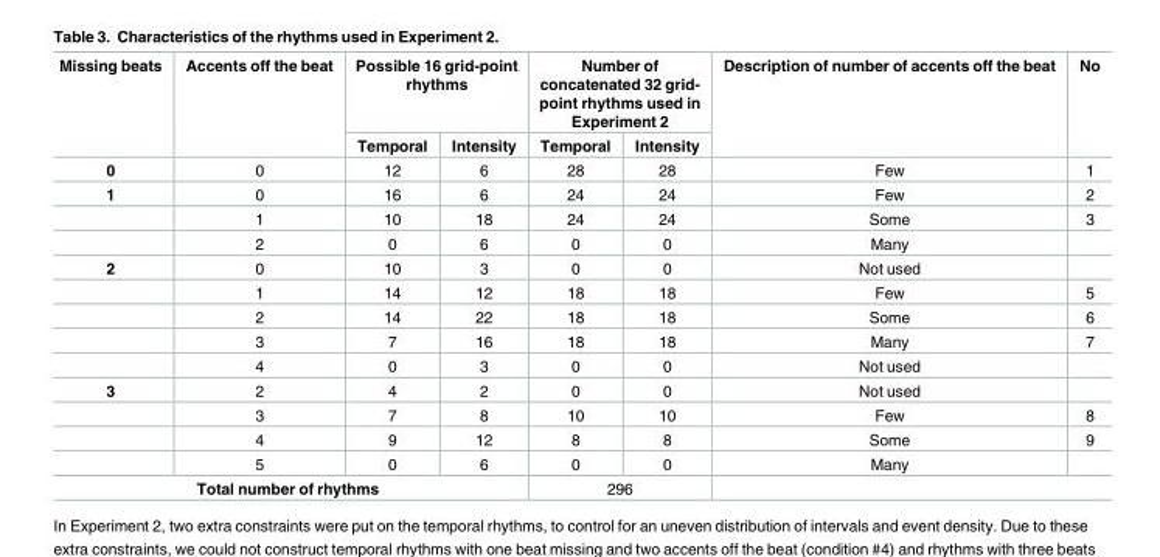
<table><thead><tr><td rowspan="2">Missing beats</td><td rowspan="2">Accents off the beat</td><td colspan="2">Possible 16 grid-point rhythms</td><td colspan="2">Number of concatenated 32 grid- point rhythms used in Experiment 2</td><td rowspan="2">Description of number of accents off the beat</td><td rowspan="2">No</td></tr><tr><td>Temporal</td><td>Intensity</td><td>Temporal</td><td>Intensity</td></tr></thead><tbody><tr><td>0</td><td>0</td><td>12</td><td>6</td><td>28</td><td>28</td><td>Few</td><td>1</td></tr><tr><td rowspan="3">1</td><td>0</td><td>16</td><td>6</td><td>24</td><td>24</td><td>Few</td><td>2</td></tr><tr><td>1</td><td>10</td><td>18</td><td>24</td><td>24</td><td>Some</td><td>3</td></tr><tr><td>2</td><td>0</td><td>6</td><td>0</td><td>0</td><td>Many</td><td></td></tr><tr><td rowspan="5">2</td><td>0</td><td>10</td><td>3</td><td>0</td><td>0</td><td>Not used</td><td></td></tr><tr><td>1</td><td>14</td><td>12</td><td>18</td><td>18</td><td>Few</td><td>5</td></tr><tr><td>2</td><td>14</td><td>22</td><td>18</td><td>18</td><td>Some</td><td>6</td></tr><tr><td>3</td><td>7</td><td>16</td><td>18</td><td>18</td><td>Many</td><td>7</td></tr><tr><td>4</td><td>0</td><td>3</td><td>0</td><td>0</td><td>Not used</td><td></td></tr><tr><td rowspan="4">3</td><td>2</td><td>4</td><td>2</td><td>0</td><td>0</td><td>Not used</td><td></td></tr><tr><td>3</td><td>7</td><td>8</td><td>10</td><td>10</td><td>Few</td><td>8</td></tr><tr><td>4</td><td>9</td><td>12</td><td>8</td><td>8</td><td>Some</td><td>9</td></tr><tr><td>5</td><td>0</td><td>6</td><td>0</td><td>0</td><td>Many</td><td></td></tr><tr><td colspan="4">Total number of rhythms</td><td colspan="2">296</td><td colspan="2"></td></tr></tbody></table>